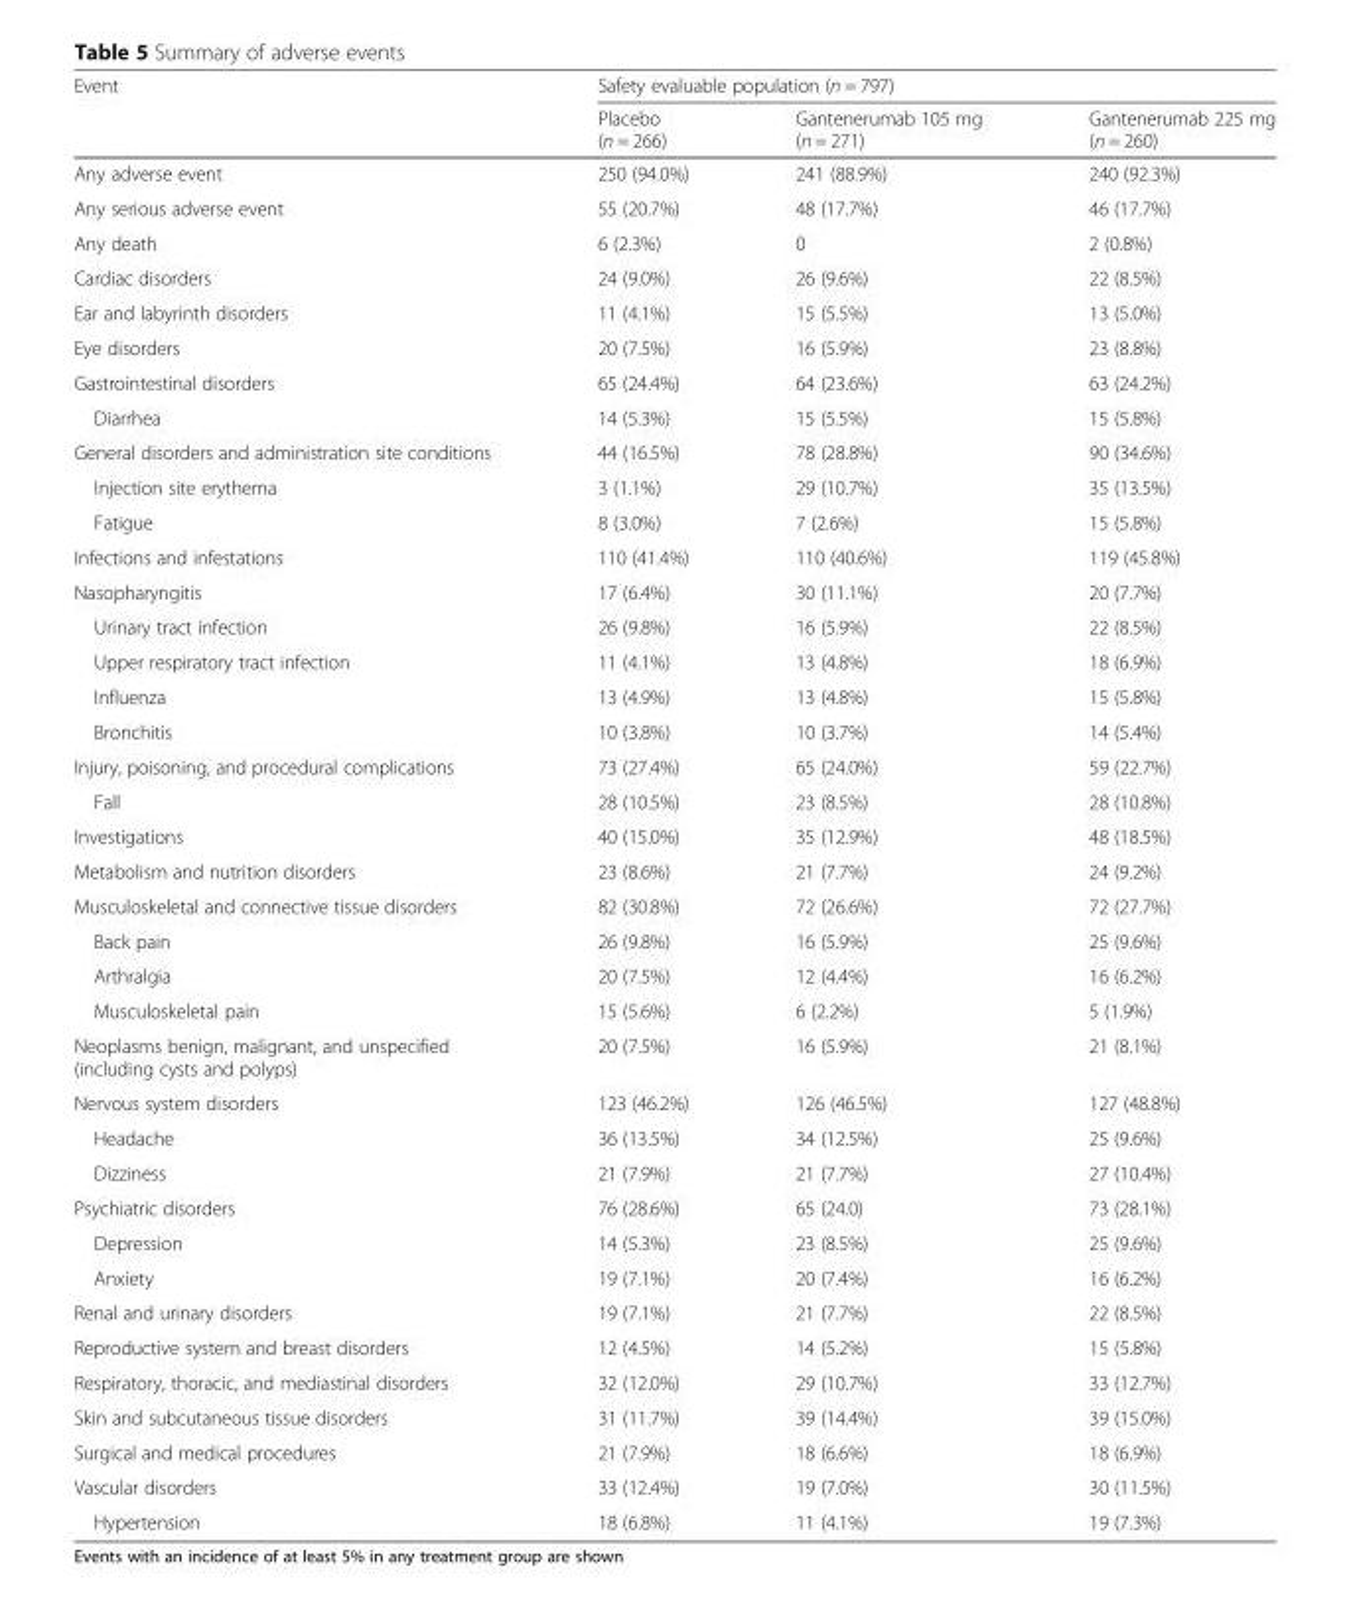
<table><thead><tr><td rowspan="2">Event</td><td colspan="3">Safety evaluable population (n = 797)</td></tr><tr><td>Placebo (n = 266)</td><td>Gantenerumab 105 mg (n = 271)</td><td>Gantenerumab 225 mg (n = 260)</td></tr></thead><tbody><tr><td>Any adverse event</td><td>250 (94.0%)</td><td>241 (88.9%)</td><td>240 (92.3%)</td></tr><tr><td>Any serious adverse event</td><td>55 (20.7%)</td><td>48 (17.7%)</td><td>46 (17.7%)</td></tr><tr><td>Any death</td><td>6 (2.3%)</td><td>0</td><td>2 (0.8%)</td></tr><tr><td>Cardiac disorders</td><td>24 (9.0%)</td><td>26 (9.6%)</td><td>22 (8.5%)</td></tr><tr><td>Ear and labyrinth disorders</td><td>11 (4.1%)</td><td>15 (5.5%)</td><td>13 (5.0%)</td></tr><tr><td>Eye disorders</td><td>20 (7.5%)</td><td>16 (5.9%)</td><td>23 (8.8%)</td></tr><tr><td>Gastrointestinal disorders</td><td>65 (24.4%)</td><td>64 (23.6%)</td><td>63 (24.2%)</td></tr><tr><td>Diarrhea</td><td>14 (5.3%)</td><td>15 (5.5%)</td><td>15 (5.8%)</td></tr><tr><td>General disorders and administration site conditions</td><td>44 (16.5%)</td><td>78 (28.8%)</td><td>90 (34.6%)</td></tr><tr><td>Injection site erythema</td><td>3 (1.1%)</td><td>29 (10.7%)</td><td>35 (13.5%)</td></tr><tr><td>Fatigue</td><td>8 (3.0%)</td><td>7 (2.6%)</td><td>15 (5.8%)</td></tr><tr><td>Infections and infestations</td><td>110 (41.4%)</td><td>110 (40.6%)</td><td>119 (45.8%)</td></tr><tr><td>Nasopharyngitis</td><td>17 (6.4%)</td><td>30 (11.1%)</td><td>20 (7.7%)</td></tr><tr><td>Urinary tract infection</td><td>26 (9.8%)</td><td>16 (5.9%)</td><td>22 (8.5%)</td></tr><tr><td>Upper respiratory tract infection</td><td>11 (4.1%)</td><td>13 (4.8%)</td><td>18 (6.9%)</td></tr><tr><td>Influenza</td><td>13 (4.9%)</td><td>13 (4.8%)</td><td>15 (5.8%)</td></tr><tr><td>Bronchitis</td><td>10 (3.8%)</td><td>10 (3.7%)</td><td>14 (5.4%)</td></tr><tr><td>Injury, poisoning, and procedural complications</td><td>73 (27.4%)</td><td>65 (24.0%)</td><td>59 (22.7%)</td></tr><tr><td>Fall</td><td>28 (10.5%)</td><td>23 (8.5%)</td><td>28 (10.8%)</td></tr><tr><td>Investigations</td><td>40 (15.0%)</td><td>35 (12.9%)</td><td>48 (18.5%)</td></tr><tr><td>Metabolism and nutrition disorders</td><td>23 (8.6%)</td><td>21 (7.7%)</td><td>24 (9.2%)</td></tr><tr><td>Musculoskeletal and connective tissue disorders</td><td>82 (30.8%)</td><td>72 (26.6%)</td><td>72 (27.7%)</td></tr><tr><td>Back pain</td><td>26 (9.8%)</td><td>16 (5.9%)</td><td>25 (9.6%)</td></tr><tr><td>Arthralgia</td><td>20 (7.5%)</td><td>12 (4.4%)</td><td>16 (6.2%)</td></tr><tr><td>Musculoskeletal pain</td><td>15 (5.6%)</td><td>6 (2.2%)</td><td>5 (1.9%)</td></tr><tr><td>Neoplasms benign, malignant, and unspecified (including cysts and polyps)</td><td>20 (7.5%)</td><td>16 (5.9%)</td><td>21 (8.1%)</td></tr><tr><td>Nervous system disorders</td><td>123 (46.2%)</td><td>126 (46.5%)</td><td>127 (48.8%)</td></tr><tr><td>Headache</td><td>36 (13.5%)</td><td>34 (12.5%)</td><td>25 (9.6%)</td></tr><tr><td>Dizziness</td><td>21 (7.9%)</td><td>21 (7.7%)</td><td>27 (10.4%)</td></tr><tr><td>Psychiatric disorders</td><td>76 (28.6%)</td><td>65 (24.0)</td><td>73 (28.1%)</td></tr><tr><td>Depression</td><td>14 (5.3%)</td><td>23 (8.5%)</td><td>25 (9.6%)</td></tr><tr><td>Anxiety</td><td>19 (7.1%)</td><td>20 (7.4%)</td><td>16 (6.2%)</td></tr><tr><td>Renal and urinary disorders</td><td>19 (7.1%)</td><td>21 (7.7%)</td><td>22 (8.5%)</td></tr><tr><td>Reproductive system and breast disorders</td><td>12 (4.5%)</td><td>14 (5.2%)</td><td>15 (5.8%)</td></tr><tr><td>Respiratory, thoracic, and mediastinal disorders</td><td>32 (12.0%)</td><td>29 (10.7%)</td><td>33 (12.7%)</td></tr><tr><td>Skin and subcutaneous tissue disorders</td><td>31 (11.7%)</td><td>39 (14.4%)</td><td>39 (15.0%)</td></tr><tr><td>Surgical and medical procedures</td><td>21 (7.9%)</td><td>18 (6.6%)</td><td>18 (6.9%)</td></tr><tr><td>Vascular disorders</td><td>33 (12.4%)</td><td>19 (7.0%)</td><td>30 (11.5%)</td></tr><tr><td>Hypertension</td><td>18 (6.8%)</td><td>11 (4.1%)</td><td>19 (7.3%)</td></tr></tbody></table>